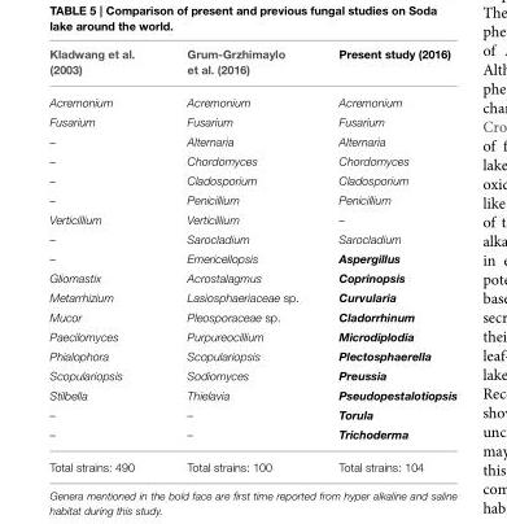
<table><thead><tr><td>Kladwang et al. (2003)</td><td>Grum-Grzhimaylo et al. (2016)</td><td>Present study (2016)</td></tr></thead><tbody><tr><td>Acremonium</td><td>Acremonium</td><td>Acremonium</td></tr><tr><td>Fusarium</td><td>Fusarium</td><td>Fusarium</td></tr><tr><td>–</td><td>Alternaria</td><td>Alternaria</td></tr><tr><td>–</td><td>Chordomyces</td><td>Chordomyces</td></tr><tr><td>–</td><td>Cladosporium</td><td>Cladosporium</td></tr><tr><td>–</td><td>Penicillium</td><td>Penicillium</td></tr><tr><td>Verticillium</td><td>Verticillium</td><td>–</td></tr><tr><td>–</td><td>Sarocladium</td><td>Sarocladium</td></tr><tr><td>–</td><td>Emericellopsis</td><td>Aspergillus</td></tr><tr><td>Gliomastix</td><td>Acrostalagmus</td><td>Coprinopsis</td></tr><tr><td>Metarrhizium</td><td>Lasiosphaeriaceae sp.</td><td>Curvularia</td></tr><tr><td>Mucor</td><td>Pleosporaceae sp.</td><td>Cladorrhinum</td></tr><tr><td>Paecilomyces</td><td>Purpureocillium</td><td>Microdiplodia</td></tr><tr><td>Phialophora</td><td>Scopulariopsis</td><td>Plectosphaerella</td></tr><tr><td>Scopulariopsis</td><td>Sodiomyces</td><td>Preussia</td></tr><tr><td>Stilbella</td><td>Thielavia</td><td>Pseudopestalotiopsis</td></tr><tr><td>–</td><td>–</td><td>Torula</td></tr><tr><td>–</td><td>–</td><td>Trichoderma</td></tr><tr><td>Total strains: 490</td><td>Total strains: 100</td><td>Total strains: 104</td></tr></tbody></table>